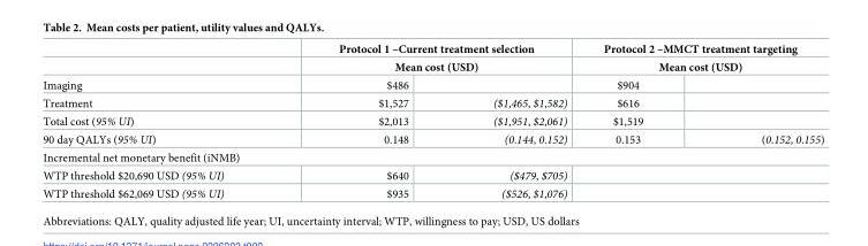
<table><thead><tr><td rowspan="3">Imaging</td><td rowspan="2" colspan="2">Protocol 1 –Current treatment selection Mean cost (USD)</td><td rowspan="2" colspan="2">Protocol 2 –MMCT treatment targeting Mean cost (USD)</td></tr><tr></tr><tr><td>$486</td><td></td><td>$904</td><td></td></tr></thead><tbody><tr><td>Treatment</td><td>$1,527</td><td>($1,465, $1,582)</td><td>$616</td><td></td></tr><tr><td>Total cost (95% UI)</td><td>$2,013</td><td>($1,951, $2,061)</td><td>$1,519</td><td></td></tr><tr><td>90 day QALYs (95% UI)</td><td>0.148</td><td>(0.144, 0.152)</td><td>0.153</td><td>(0.152, 0.155)</td></tr><tr><td colspan="5">Incremental net monetary benefit (iNMB)</td></tr><tr><td>WTP threshold $20,690 USD (95% UI)</td><td>$640</td><td>($479, $705)</td><td colspan="2"></td></tr><tr><td>WTP threshold $62,069 USD (95% UI)</td><td>$935</td><td>($526, $1,076)</td><td colspan="2"></td></tr></tbody></table>